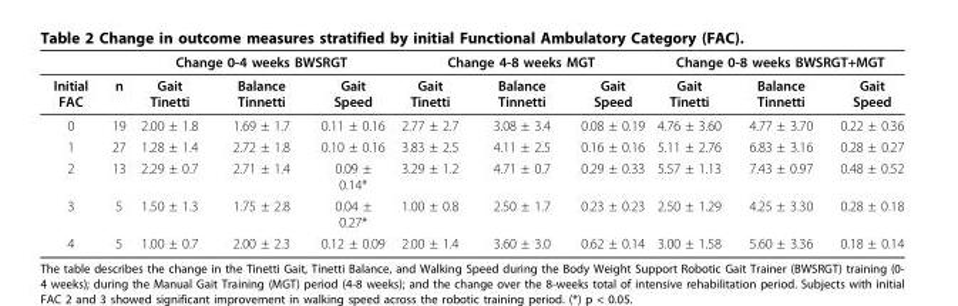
<table><thead><tr><td rowspan="2">Initial FAC</td><td rowspan="2">n</td><td colspan="3">Change 0-4 weeks BWSRGT</td><td colspan="3">Change 4-8 weeks MGT</td><td colspan="3">Change 0-8 weeks BWSRGT+MGT</td></tr><tr><td>Gait Tinetti</td><td>Balance Tinnetti</td><td>Gait Speed</td><td>Gait Tinetti</td><td>Balance Tinnetti</td><td>Gait Speed</td><td>Gait Tinetti</td><td>Balance Tinnetti</td><td>Gait Speed</td></tr></thead><tbody><tr><td>0</td><td>19</td><td>2.00 ± 1.8</td><td>1.69 ± 1.7</td><td>0.11 ± 0.16</td><td>2.77 ± 2.7</td><td>3.08 ± 3.4</td><td>0.08 ± 0.19</td><td>4.76 ± 3.60</td><td>4.77 ± 3.70</td><td>0.22 ± 0.36</td></tr><tr><td>1</td><td>27</td><td>1.28 ± 1.4</td><td>2.72 ± 1.8</td><td>0.10 ± 0.16</td><td>3.83 ± 2.5</td><td>4.11 ± 2.5</td><td>0.16 ± 0.16</td><td>5.11 ± 2.76</td><td>6.83 ± 3.16</td><td>0.28 ± 0.27</td></tr><tr><td>2</td><td>13</td><td>2.29 ± 0.7</td><td>2.71 ± 1.4</td><td>0.09 ± 0.14*</td><td>3.29 ± 1.2</td><td>4.71 ± 0.7</td><td>0.29 ± 0.33</td><td>5.57 ± 1.13</td><td>7.43 ± 0.97</td><td>0.48 ± 0.52</td></tr><tr><td>3</td><td>5</td><td>1.50 ± 1.3</td><td>1.75 ± 2.8</td><td>0.04 ± 0.27*</td><td>1.00 ± 0.8</td><td>2.50 ± 1.7</td><td>0.23 ± 0.23</td><td>2.50 ± 1.29</td><td>4.25 ± 3.30</td><td>0.28 ± 0.18</td></tr><tr><td>4</td><td>5</td><td>1.00 ± 0.7</td><td>2.00 ± 2.3</td><td>0.12 ± 0.09</td><td>2.00 ± 1.4</td><td>3.60 ± 3.0</td><td>0.62 ± 0.14</td><td>3.00 ± 1.58</td><td>5.60 ± 3.36</td><td>0.18 ± 0.14</td></tr></tbody></table>